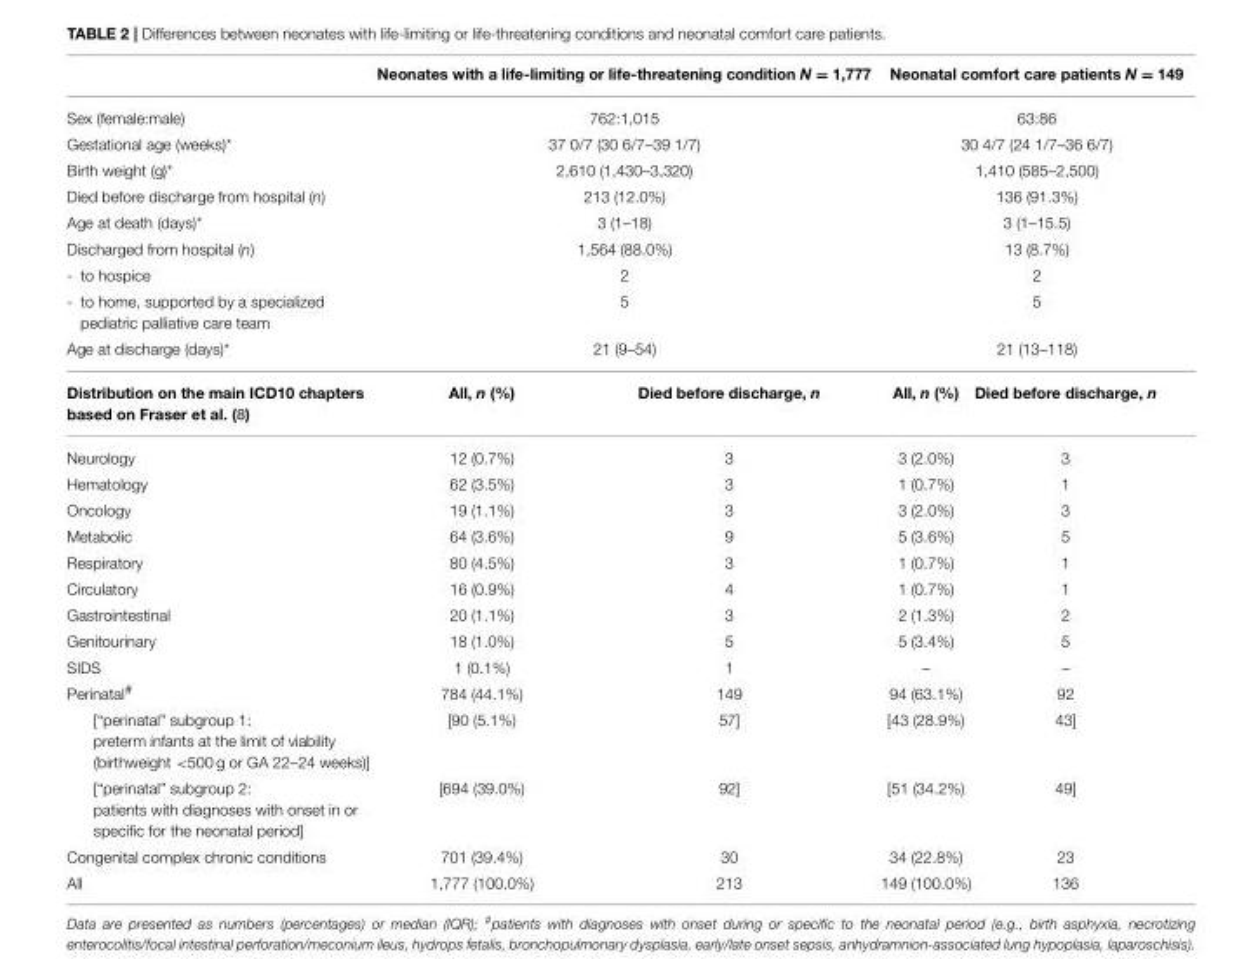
<table><thead><tr><td></td><td colspan="2">Neonates with a life-limiting or life-threatening condition N = 1,777</td><td colspan="2">Neonatal comfort care patients N = 149</td></tr></thead><tbody><tr><td>Sex (female:male)</td><td colspan="2">762:1,015</td><td colspan="2">63:86</td></tr><tr><td>Gestational age (weeks)*</td><td colspan="2">37 0/7 (30 6/7–39 1/7)</td><td colspan="2">30 4/7 (24 1/7–36 6/7)</td></tr><tr><td>Birth weight (g)*</td><td colspan="2">2,610 (1,430–3,320)</td><td colspan="2">1,410 (585–2,500)</td></tr><tr><td>Died before discharge from hospital (n)</td><td colspan="2">213 (12.0%)</td><td colspan="2">136 (91.3%)</td></tr><tr><td>Age at death (days)*</td><td colspan="2">3 (1–18)</td><td colspan="2">3 (1–15.5)</td></tr><tr><td>Discharged from hospital (n)</td><td colspan="2">1,564 (88.0%)</td><td colspan="2">13 (8.7%)</td></tr><tr><td>- to hospice</td><td colspan="2">2</td><td colspan="2">2</td></tr><tr><td>- to home, supported by a specialized pediatric palliative care team</td><td colspan="2">5</td><td colspan="2">5</td></tr><tr><td>Age at discharge (days)*</td><td colspan="2">21 (9–54)</td><td colspan="2">21 (13–118)</td></tr><tr><td>Distribution on the main ICD10 chapters based on Fraser et al. (8)</td><td>All, n (%)</td><td>Died before discharge, n</td><td>All, n (%)</td><td>Died before discharge, n</td></tr><tr><td>Neurology</td><td>12 (0.7%)</td><td>3</td><td>3 (2.0%)</td><td>3</td></tr><tr><td>Hematology</td><td>62 (3.5%)</td><td>3</td><td>1 (0.7%)</td><td>1</td></tr><tr><td>Oncology</td><td>19 (1.1%)</td><td>3</td><td>3 (2.0%)</td><td>3</td></tr><tr><td>Metabolic</td><td>64 (3.6%)</td><td>9</td><td>5 (3.6%)</td><td>5</td></tr><tr><td>Respiratory</td><td>80 (4.5%)</td><td>3</td><td>1 (0.7%)</td><td>1</td></tr><tr><td>Circulatory</td><td>16 (0.9%)</td><td>4</td><td>1 (0.7%)</td><td>1</td></tr><tr><td>Gastrointestinal</td><td>20 (1.1%)</td><td>3</td><td>2 (1.3%)</td><td>2</td></tr><tr><td>Genitourinary</td><td>18 (1.0%)</td><td>5</td><td>5 (3.4%)</td><td>5</td></tr><tr><td>SIDS</td><td>1 (0.1%)</td><td>1</td><td>–</td><td>–</td></tr><tr><td>Perinatal<sup>#</sup></td><td>784 (44.1%)</td><td>149</td><td>94 (63.1%)</td><td>92</td></tr><tr><td>[“perinatal” subgroup 1: preterm infants at the limit of viability (birthweight &lt;500 g or GA 22–24 weeks)]</td><td>[90 (5.1%)</td><td>57]</td><td>[43 (28.9%)</td><td>43]</td></tr><tr><td>[“perinatal” subgroup 2: patients with diagnoses with onset in or specific for the neonatal period]</td><td>[694 (39.0%)</td><td>92]</td><td>[51 (34.2%)</td><td>49]</td></tr><tr><td>Congenital complex chronic conditions</td><td>701 (39.4%)</td><td>30</td><td>34 (22.8%)</td><td>23</td></tr><tr><td>All</td><td>1,777 (100.0%)</td><td>213</td><td>149 (100.0%)</td><td>136</td></tr></tbody></table>